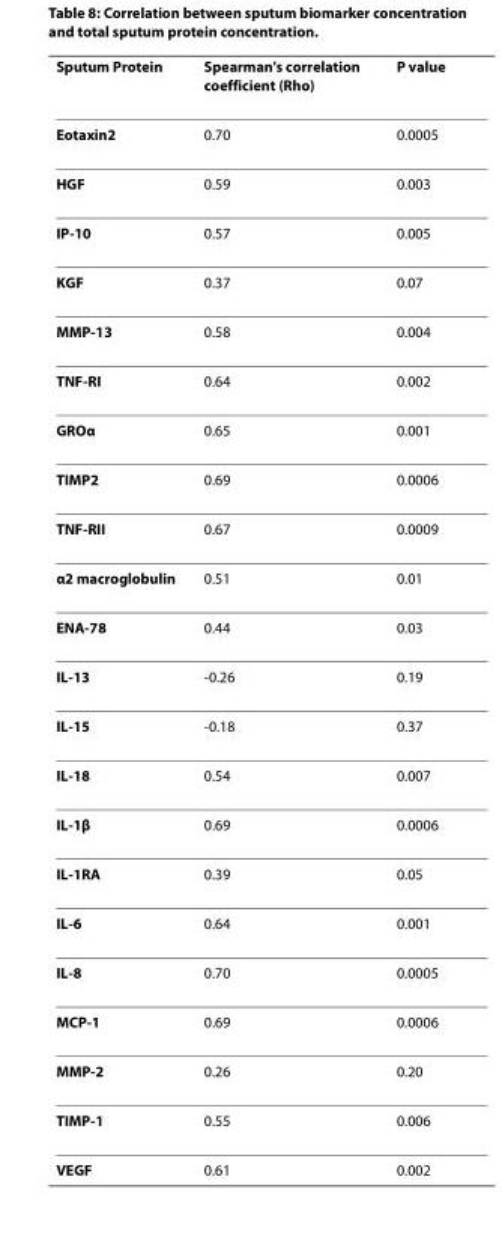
<table><thead><tr><td>Sputum Protein</td><td>Spearman&#x27;s correlation coefficient (Rho)</td><td>P value</td></tr></thead><tbody><tr><td>Eotaxin2</td><td>0.70</td><td>0.0005</td></tr><tr><td>HGF</td><td>0.59</td><td>0.003</td></tr><tr><td>IP-10</td><td>0.57</td><td>0.005</td></tr><tr><td>KGF</td><td>0.37</td><td>0.07</td></tr><tr><td>MMP-13</td><td>0.58</td><td>0.004</td></tr><tr><td>TNF-RI</td><td>0.64</td><td>0.002</td></tr><tr><td>GROα</td><td>0.65</td><td>0.001</td></tr><tr><td>TIMP2</td><td>0.69</td><td>0.0006</td></tr><tr><td>TNF-RII</td><td>0.67</td><td>0.0009</td></tr><tr><td>α2 macroglobulin</td><td>0.51</td><td>0.01</td></tr><tr><td>ENA-78</td><td>0.44</td><td>0.03</td></tr><tr><td>IL-13</td><td>-0.26</td><td>0.19</td></tr><tr><td>IL-15</td><td>-0.18</td><td>0.37</td></tr><tr><td>IL-18</td><td>0.54</td><td>0.007</td></tr><tr><td>IL-1β</td><td>0.69</td><td>0.0006</td></tr><tr><td>IL-1RA</td><td>0.39</td><td>0.05</td></tr><tr><td>IL-6</td><td>0.64</td><td>0.001</td></tr><tr><td>IL-8</td><td>0.70</td><td>0.0005</td></tr><tr><td>MCP-1</td><td>0.69</td><td>0.0006</td></tr><tr><td>MMP-2</td><td>0.26</td><td>0.20</td></tr><tr><td>TIMP-1</td><td>0.55</td><td>0.006</td></tr><tr><td>VEGF</td><td>0.61</td><td>0.002</td></tr></tbody></table>